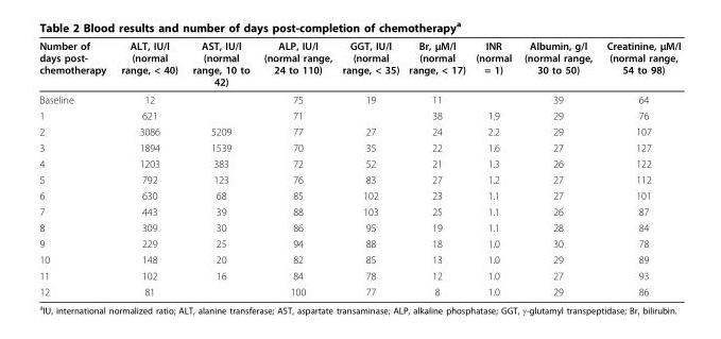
<table><thead><tr><td>Number of days post- chemotherapy</td><td>ALT, IU/l (normal range, &lt; 40)</td><td>AST, IU/l (normal range, 10 to 42)</td><td>ALP, IU/l (normal range, 24 to 110)</td><td>GGT, IU/l (normal range, &lt; 35)</td><td>Br, μM/l (normal range, &lt; 17)</td><td>INR (normal = 1)</td><td>Albumin, g/l (normal range, 30 to 50)</td><td>Creatinine, μM/l (normal range, 54 to 98)</td></tr></thead><tbody><tr><td>Baseline</td><td>12</td><td></td><td>75</td><td>19</td><td>11</td><td></td><td>39</td><td>64</td></tr><tr><td>1</td><td>621</td><td></td><td>71</td><td></td><td>38</td><td>1.9</td><td>29</td><td>76</td></tr><tr><td>2</td><td>3086</td><td>5209</td><td>77</td><td>27</td><td>24</td><td>2.2</td><td>29</td><td>107</td></tr><tr><td>3</td><td>1894</td><td>1539</td><td>70</td><td>35</td><td>22</td><td>1.6</td><td>27</td><td>127</td></tr><tr><td>4</td><td>1203</td><td>383</td><td>72</td><td>52</td><td>21</td><td>1.3</td><td>26</td><td>122</td></tr><tr><td>5</td><td>792</td><td>123</td><td>76</td><td>83</td><td>27</td><td>1.2</td><td>27</td><td>112</td></tr><tr><td>6</td><td>630</td><td>68</td><td>85</td><td>102</td><td>23</td><td>1.1</td><td>27</td><td>101</td></tr><tr><td>7</td><td>443</td><td>39</td><td>88</td><td>103</td><td>25</td><td>1.1</td><td>26</td><td>87</td></tr><tr><td>8</td><td>309</td><td>30</td><td>86</td><td>95</td><td>19</td><td>1.1</td><td>28</td><td>84</td></tr><tr><td>9</td><td>229</td><td>25</td><td>94</td><td>88</td><td>18</td><td>1.0</td><td>30</td><td>78</td></tr><tr><td>10</td><td>148</td><td>20</td><td>82</td><td>85</td><td>13</td><td>1.0</td><td>29</td><td>89</td></tr><tr><td>11</td><td>102</td><td>16</td><td>84</td><td>78</td><td>12</td><td>1.0</td><td>27</td><td>93</td></tr><tr><td>12</td><td>81</td><td></td><td>100</td><td>77</td><td>8</td><td>1.0</td><td>29</td><td>86</td></tr></tbody></table>